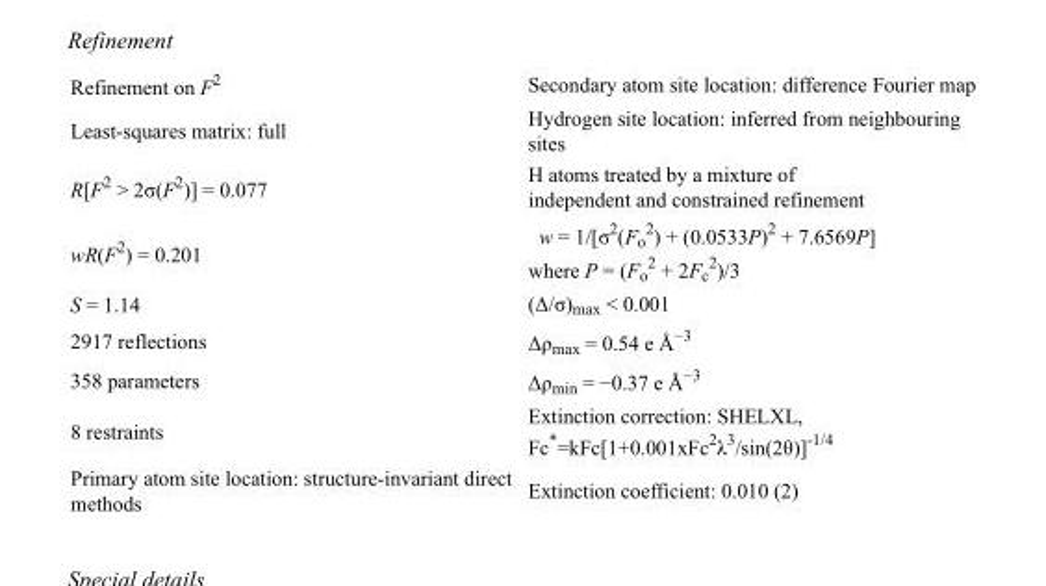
<table><tbody><tr><td>Refinement on F<sup>2</sup></td><td>Secondary atom site location: difference Fourier map</td></tr><tr><td>Least-squares matrix: full</td><td>Hydrogen site location: inferred from neighbouring sites</td></tr><tr><td>R[F<sup>2</sup> &gt; 2σ(F<sup>2</sup>)] = 0.077</td><td>H atoms treated by a mixture of independent and constrained refinement</td></tr><tr><td>wR(F<sup>2</sup>) = 0.201</td><td>w = 1/[σ<sup>2</sup>(F<sub>o</sub> <sup>2</sup>) + (0.0533P)<sup>2</sup> + 7.6569P] where P = (F<sub>o</sub> <sup>2</sup> + 2F<sub>c</sub> <sup>2</sup>)/3</td></tr><tr><td>S = 1.14</td><td>(Δ/σ)<sub>max</sub> &lt; 0.001</td></tr><tr><td>2917 reflections</td><td>Δρ<sub>max</sub> = 0.54 e Å<sup>−3</sup></td></tr><tr><td>358 parameters</td><td>Δρ<sub>min</sub> = −0.37 e Å<sup>−3</sup></td></tr><tr><td>8 restraints</td><td>Extinction correction: SHELXL, Fc*=kFc[1+0.001xFc<sup>2</sup>λ<sup>3</sup>/sin(2θ)]<sup>-1/4</sup></td></tr><tr><td>Primary atom site location: structure-invariant direct methods</td><td>Extinction coefficient: 0.010 (2)</td></tr></tbody></table>